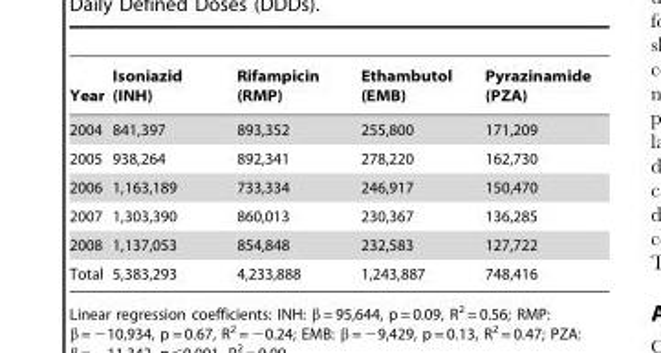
<table><thead><tr><td>Year</td><td>Isoniazid (INH)</td><td>Rifampicin (RMP)</td><td>Ethambutol (EMB)</td><td>Pyrazinamide (PZA)</td></tr></thead><tbody><tr><td>2004</td><td>841,397</td><td>893,352</td><td>255,800</td><td>171,209</td></tr><tr><td>2005</td><td>938,264</td><td>892,341</td><td>278,220</td><td>162,730</td></tr><tr><td>2006</td><td>1,163,189</td><td>733,334</td><td>246,917</td><td>150,470</td></tr><tr><td>2007</td><td>1,303,390</td><td>860,013</td><td>230,367</td><td>136,285</td></tr><tr><td>2008</td><td>1,137,053</td><td>854,848</td><td>232,583</td><td>127,722</td></tr><tr><td>Total</td><td>5,383,293</td><td>4,233,888</td><td>1,243,887</td><td>748,416</td></tr></tbody></table>